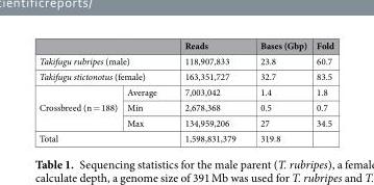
<table><thead><tr><td></td><td></td><td>Reads</td><td>Bases (Gbp)</td><td>Fold</td></tr></thead><tbody><tr><td colspan="2">Takifugu rubripes (male)</td><td>118,907,833</td><td>23.8</td><td>60.7</td></tr><tr><td colspan="2">Takifugu stictonotus (female)</td><td>163,351,727</td><td>32.7</td><td>83.5</td></tr><tr><td rowspan="3">Crossbreed (n = 188)</td><td>Average</td><td>7,003,042</td><td>1.4</td><td>1.8</td></tr><tr><td>Min</td><td>2,678,368</td><td>0.5</td><td>0.7</td></tr><tr><td>Max</td><td>134,959,206</td><td>27</td><td>34.5</td></tr><tr><td colspan="2">Total</td><td>1,598,831,379</td><td>319.8</td><td></td></tr></tbody></table>